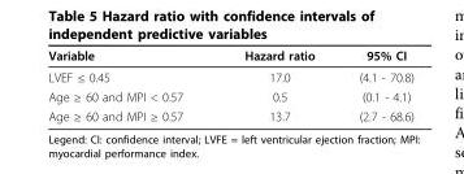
<table><thead><tr><td>Variable</td><td>Hazard ratio</td><td>95% CI</td></tr></thead><tbody><tr><td>LVEF ≤ 0.45</td><td>17.0</td><td>(4.1 - 70.8)</td></tr><tr><td>Age ≥ 60 and MPI &lt; 0.57</td><td>0.5</td><td>(0.1 - 4.1)</td></tr><tr><td>Age ≥ 60 and MPI ≥ 0.57</td><td>13.7</td><td>(2.7 - 68.6)</td></tr></tbody></table>